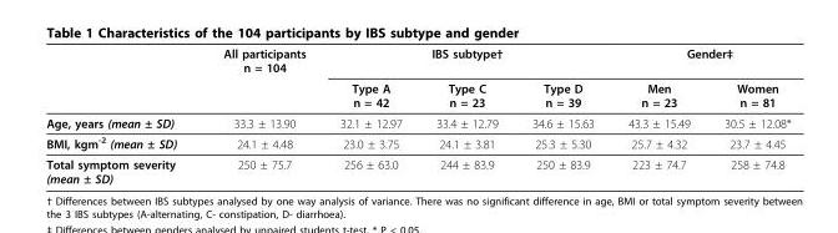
<table><thead><tr><td rowspan="2"></td><td rowspan="2">All participants n = 104</td><td colspan="3">IBS subtype†</td><td colspan="2">Gender‡</td></tr><tr><td>Type A n = 42</td><td>Type C n = 23</td><td>Type D n = 39</td><td>Men n = 23</td><td>Women n = 81</td></tr></thead><tbody><tr><td>Age, years (mean ± SD)</td><td>33.3 ± 13.90</td><td>32.1 ± 12.97</td><td>33.4 ± 12.79</td><td>34.6 ± 15.63</td><td>43.3 ± 15.49</td><td>30.5 ± 12.08*</td></tr><tr><td>BMI, kgm<sup>-2</sup> (mean ± SD)</td><td>24.1 ± 4.48</td><td>23.0 ± 3.75</td><td>24.1 ± 3.81</td><td>25.3 ± 5.30</td><td>25.7 ± 4.32</td><td>23.7 ± 4.45</td></tr><tr><td>Total symptom severity (mean ± SD)</td><td>250 ± 75.7</td><td>256 ± 63.0</td><td>244 ± 83.9</td><td>250 ± 83.9</td><td>223 ± 74.7</td><td>258 ± 74.8</td></tr></tbody></table>